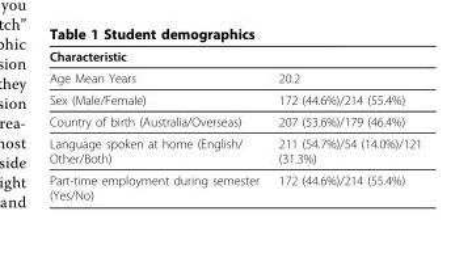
<table><thead><tr><td>Characteristic</td><td></td></tr></thead><tbody><tr><td>Age Mean Years</td><td>20.2</td></tr><tr><td>Sex (Male/Female)</td><td>172 (44.6%)/214 (55.4%)</td></tr><tr><td>Country of birth (Australia/Overseas)</td><td>207 (53.6%)/179 (46.4%)</td></tr><tr><td>Language spoken at home (English/ Other/Both)</td><td>211 (54.7%)/54 (14.0%)/121 (31.3%)</td></tr><tr><td>Part-time employment during semester (Yes/No)</td><td>172 (44.6%)/214 (55.4%)</td></tr></tbody></table>